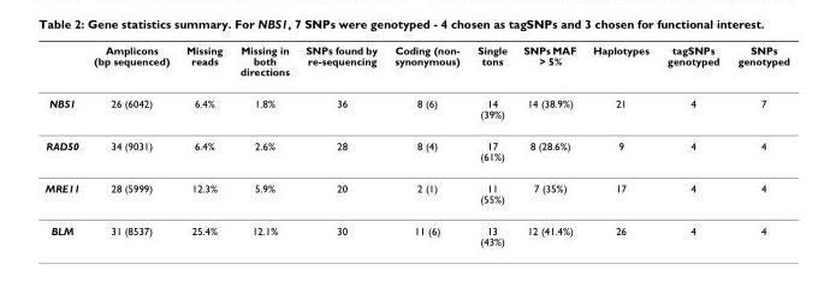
<table><thead><tr><td></td><td>Amplicons (bp sequenced)</td><td>Missing reads</td><td>Missing in both directions</td><td>SNPs found by re-sequencing</td><td>Coding (non- synonymous)</td><td>Single tons</td><td>SNPs MAF &gt; 5%</td><td>Haplotypes</td><td>tagSNPs genotyped</td><td>SNPs genotyped</td></tr></thead><tbody><tr><td>NBS1</td><td>26 (6042)</td><td>6.4%</td><td>1.8%</td><td>36</td><td>8 (6)</td><td>14 (39%)</td><td>14 (38.9%)</td><td>21</td><td>4</td><td>7</td></tr><tr><td>RAD50</td><td>34 (9031)</td><td>6.4%</td><td>2.6%</td><td>28</td><td>8 (4)</td><td>17 (61%)</td><td>8 (28.6%)</td><td>9</td><td>4</td><td>4</td></tr><tr><td>MRE11</td><td>28 (5999)</td><td>12.3%</td><td>5.9%</td><td>20</td><td>2 (1)</td><td>11 (55%)</td><td>7 (35%)</td><td>17</td><td>4</td><td>4</td></tr><tr><td>BLM</td><td>31 (8537)</td><td>25.4%</td><td>12.1%</td><td>30</td><td>11 (6)</td><td>13 (43%)</td><td>12 (41.4%)</td><td>26</td><td>4</td><td>4</td></tr></tbody></table>